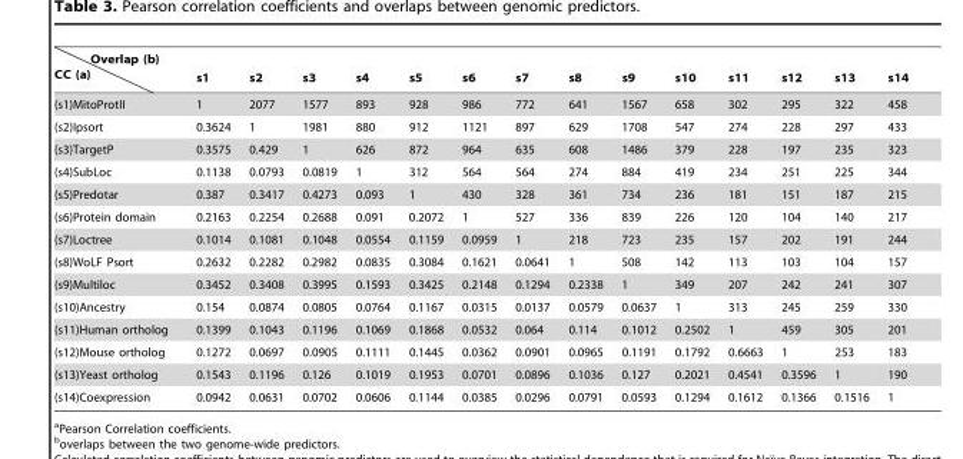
<table><thead><tr><td>Overlap (b) CC (a)</td><td>s1</td><td>s2</td><td>s3</td><td>s4</td><td>s5</td><td>s6</td><td>s7</td><td>s8</td><td>s9</td><td>s10</td><td>s11</td><td>s12</td><td>s13</td><td>s14</td></tr></thead><tbody><tr><td>(s1)MitoProtII</td><td>1</td><td>2077</td><td>1577</td><td>893</td><td>928</td><td>986</td><td>772</td><td>641</td><td>1567</td><td>658</td><td>302</td><td>295</td><td>322</td><td>458</td></tr><tr><td>(s2)Ipsort</td><td>0.3624</td><td>1</td><td>1981</td><td>880</td><td>912</td><td>1121</td><td>897</td><td>629</td><td>1708</td><td>547</td><td>274</td><td>228</td><td>297</td><td>433</td></tr><tr><td>(s3)TargetP</td><td>0.3575</td><td>0.429</td><td>1</td><td>626</td><td>872</td><td>964</td><td>635</td><td>608</td><td>1486</td><td>379</td><td>228</td><td>197</td><td>235</td><td>323</td></tr><tr><td>(s4)SubLoc</td><td>0.1138</td><td>0.0793</td><td>0.0819</td><td>1</td><td>312</td><td>564</td><td>564</td><td>274</td><td>884</td><td>419</td><td>234</td><td>251</td><td>225</td><td>344</td></tr><tr><td>(s5)Predotar</td><td>0.387</td><td>0.3417</td><td>0.4273</td><td>0.093</td><td>1</td><td>430</td><td>328</td><td>361</td><td>734</td><td>236</td><td>181</td><td>151</td><td>187</td><td>215</td></tr><tr><td>(s6)Protein domain</td><td>0.2163</td><td>0.2254</td><td>0.2688</td><td>0.091</td><td>0.2072</td><td>1</td><td>527</td><td>336</td><td>839</td><td>226</td><td>120</td><td>104</td><td>140</td><td>217</td></tr><tr><td>(s7)Loctree</td><td>0.1014</td><td>0.1081</td><td>0.1048</td><td>0.0554</td><td>0.1159</td><td>0.0959</td><td>1</td><td>218</td><td>723</td><td>235</td><td>157</td><td>202</td><td>191</td><td>244</td></tr><tr><td>(s8)WoLF Psort</td><td>0.2632</td><td>0.2282</td><td>0.2982</td><td>0.0835</td><td>0.3084</td><td>0.1621</td><td>0.0641</td><td>1</td><td>508</td><td>142</td><td>113</td><td>103</td><td>104</td><td>157</td></tr><tr><td>(s9)Multiloc</td><td>0.3452</td><td>0.3408</td><td>0.3995</td><td>0.1593</td><td>0.3425</td><td>0.2148</td><td>0.1294</td><td>0.2338</td><td>1</td><td>349</td><td>207</td><td>242</td><td>241</td><td>307</td></tr><tr><td>(s10)Ancestry</td><td>0.154</td><td>0.0874</td><td>0.0805</td><td>0.0764</td><td>0.1167</td><td>0.0315</td><td>0.0137</td><td>0.0579</td><td>0.0637</td><td>1</td><td>313</td><td>245</td><td>259</td><td>330</td></tr><tr><td>(s11)Human ortholog</td><td>0.1399</td><td>0.1043</td><td>0.1196</td><td>0.1069</td><td>0.1868</td><td>0.0532</td><td>0.064</td><td>0.114</td><td>0.1012</td><td>0.2502</td><td>1</td><td>459</td><td>305</td><td>201</td></tr><tr><td>(s12)Mouse ortholog</td><td>0.1272</td><td>0.0697</td><td>0.0905</td><td>0.1111</td><td>0.1445</td><td>0.0362</td><td>0.0901</td><td>0.0965</td><td>0.1191</td><td>0.1792</td><td>0.6663</td><td>1</td><td>253</td><td>183</td></tr><tr><td>(s13)Yeast ortholog</td><td>0.1543</td><td>0.1196</td><td>0.126</td><td>0.1019</td><td>0.1953</td><td>0.0701</td><td>0.0896</td><td>0.1036</td><td>0.127</td><td>0.2021</td><td>0.4541</td><td>0.3596</td><td>1</td><td>190</td></tr><tr><td>(s14)Coexpression</td><td>0.0942</td><td>0.0631</td><td>0.0702</td><td>0.0606</td><td>0.1144</td><td>0.0385</td><td>0.0296</td><td>0.0791</td><td>0.0593</td><td>0.1294</td><td>0.1612</td><td>0.1366</td><td>0.1516</td><td>1</td></tr></tbody></table>